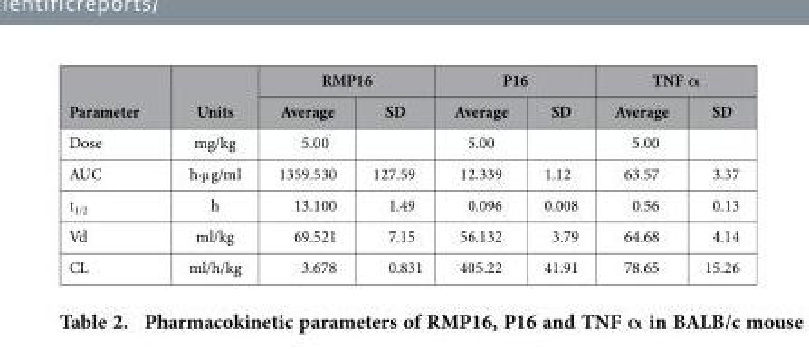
<table><thead><tr><td rowspan="2">Parameter</td><td rowspan="2">Units</td><td colspan="2">RMP16</td><td colspan="2">P16</td><td colspan="2">TNF α</td></tr><tr><td>Average</td><td>SD</td><td>Average</td><td>SD</td><td>Average</td><td>SD</td></tr></thead><tbody><tr><td>Dose</td><td>mg/kg</td><td>5.00</td><td></td><td>5.00</td><td></td><td>5.00</td><td></td></tr><tr><td>AUC</td><td>h·μ g/ml</td><td>1359.530</td><td>127.59</td><td>12.339</td><td>1.12</td><td>63.57</td><td>3.37</td></tr><tr><td>t<sub>1/2</sub></td><td>h</td><td>13.100</td><td>1.49</td><td>0.096</td><td>0.008</td><td>0.56</td><td>0.13</td></tr><tr><td>Vd</td><td>ml/kg</td><td>69.521</td><td>7.15</td><td>56.132</td><td>3.79</td><td>64.68</td><td>4.14</td></tr><tr><td>CL</td><td>ml/h/kg</td><td>3.678</td><td>0.831</td><td>405.22</td><td>41.91</td><td>78.65</td><td>15.26</td></tr></tbody></table>